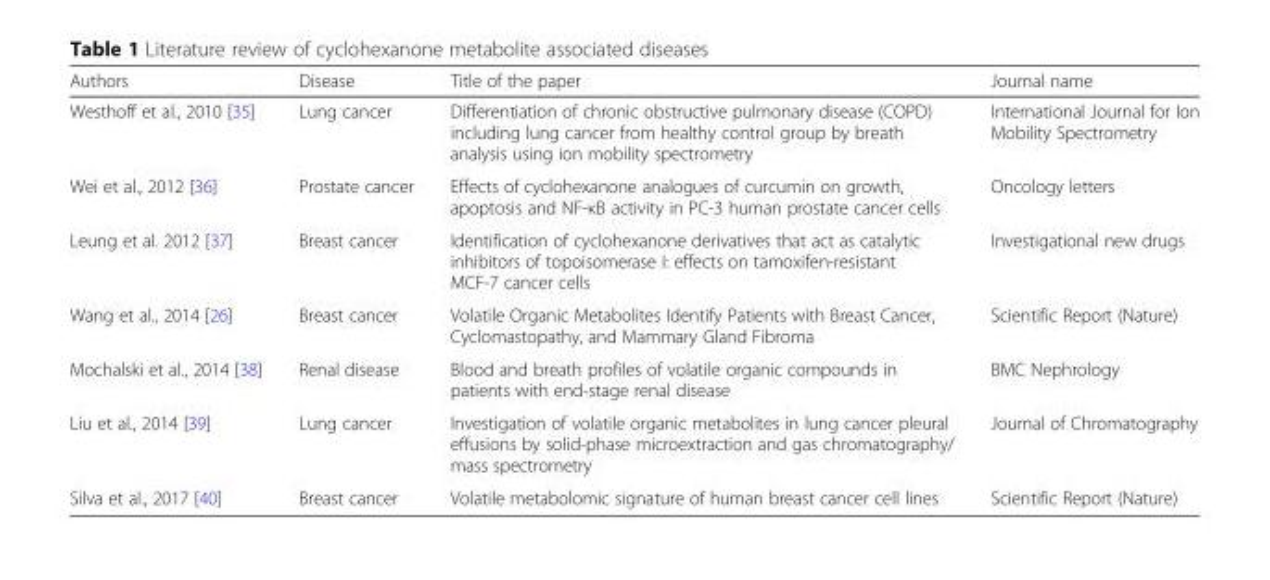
<table><thead><tr><td>Authors</td><td>Disease</td><td>Title of the paper</td><td>Journal name</td></tr></thead><tbody><tr><td>Westhoff et al., 2010 [35]</td><td>Lung cancer</td><td>Differentiation of chronic obstructive pulmonary disease (COPD) including lung cancer from healthy control group by breath analysis using ion mobility spectrometry</td><td>International Journal for Ion Mobility Spectrometry</td></tr><tr><td>Wei et al., 2012 [36]</td><td>Prostate cancer</td><td>Effects of cyclohexanone analogues of curcumin on growth, apoptosis and NF-κB activity in PC-3 human prostate cancer cells</td><td>Oncology letters</td></tr><tr><td>Leung et al. 2012 [37]</td><td>Breast cancer</td><td>Identification of cyclohexanone derivatives that act as catalytic inhibitors of topoisomerase I: effects on tamoxifen-resistant MCF-7 cancer cells</td><td>Investigational new drugs</td></tr><tr><td>Wang et al., 2014 [26]</td><td>Breast cancer</td><td>Volatile Organic Metabolites Identify Patients with Breast Cancer, Cyclomastopathy, and Mammary Gland Fibroma</td><td>Scientific Report (Nature)</td></tr><tr><td>Mochalski et al., 2014 [38]</td><td>Renal disease</td><td>Blood and breath profiles of volatile organic compounds in patients with end-stage renal disease</td><td>BMC Nephrology</td></tr><tr><td>Liu et al., 2014 [39]</td><td>Lung cancer</td><td>Investigation of volatile organic metabolites in lung cancer pleural effusions by solid-phase microextraction and gas chromatography/ mass spectrometry</td><td>Journal of Chromatography</td></tr><tr><td>Silva et al., 2017 [40]</td><td>Breast cancer</td><td>Volatile metabolomic signature of human breast cancer cell lines</td><td>Scientific Report (Nature)</td></tr></tbody></table>